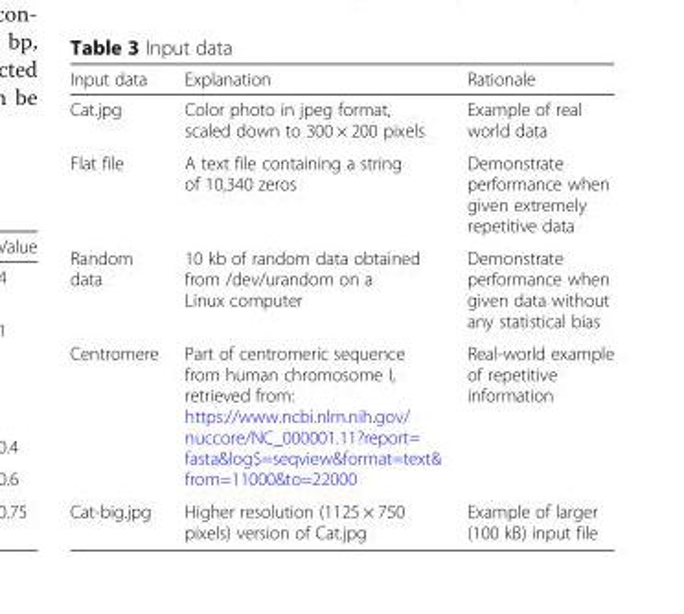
<table><thead><tr><td>Input data</td><td>Explanation</td><td>Rationale</td></tr></thead><tbody><tr><td>Cat.jpg</td><td>Color photo in jpeg format, scaled down to 300 × 200 pixels</td><td>Example of real world data</td></tr><tr><td>Flat file</td><td>A text file containing a string of 10,340 zeros</td><td>Demonstrate performance when given extremely repetitive data</td></tr><tr><td>Random data</td><td>10 kb of random data obtained from /dev/urandom on a Linux computer</td><td>Demonstrate performance when given data without any statistical bias</td></tr><tr><td>Centromere</td><td>Part of centromeric sequence from human chromosome I, retrieved from: https://www.ncbi.nlm.nih.gov/ nuccore/NC_000001.11?report= fasta&amp;log$=seqview&amp;format=text&amp; from=11000&amp;to=22000</td><td>Real-world example of repetitive information</td></tr><tr><td>Cat-big.jpg</td><td>Higher resolution (1125 × 750 pixels) version of Cat.jpg</td><td>Example of larger (100 kB) input file</td></tr></tbody></table>